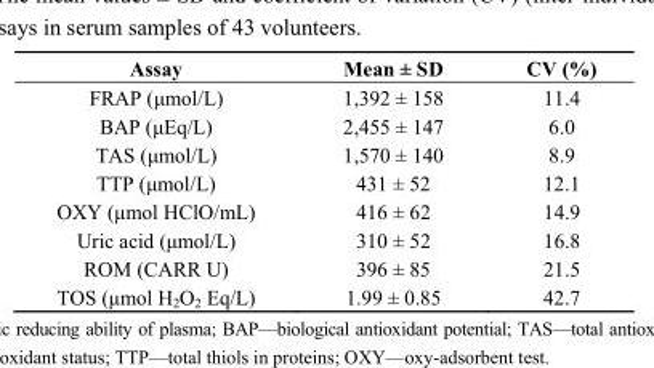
<table><thead><tr><td>Assay</td><td>Mean ± SD</td><td>CV (%)</td></tr></thead><tbody><tr><td>FRAP (μmol/L)</td><td>1,392 ± 158</td><td>11.4</td></tr><tr><td>BAP (μEq/L)</td><td>2,455 ± 147</td><td>6.0</td></tr><tr><td>TAS (μmol/L)</td><td>1,570 ± 140</td><td>8.9</td></tr><tr><td>TTP (μmol/L)</td><td>431 ± 52</td><td>12.1</td></tr><tr><td>OXY (μmol HClO/mL)</td><td>416 ± 62</td><td>14.9</td></tr><tr><td>Uric acid (μmol/L)</td><td>310 ± 52</td><td>16.8</td></tr><tr><td>ROM (CARR U)</td><td>396 ± 85</td><td>21.5</td></tr><tr><td>TOS (μmol H<sub>2</sub>O<sub>2</sub> Eq/L)</td><td>1.99 ± 0.85</td><td>42.7</td></tr></tbody></table>